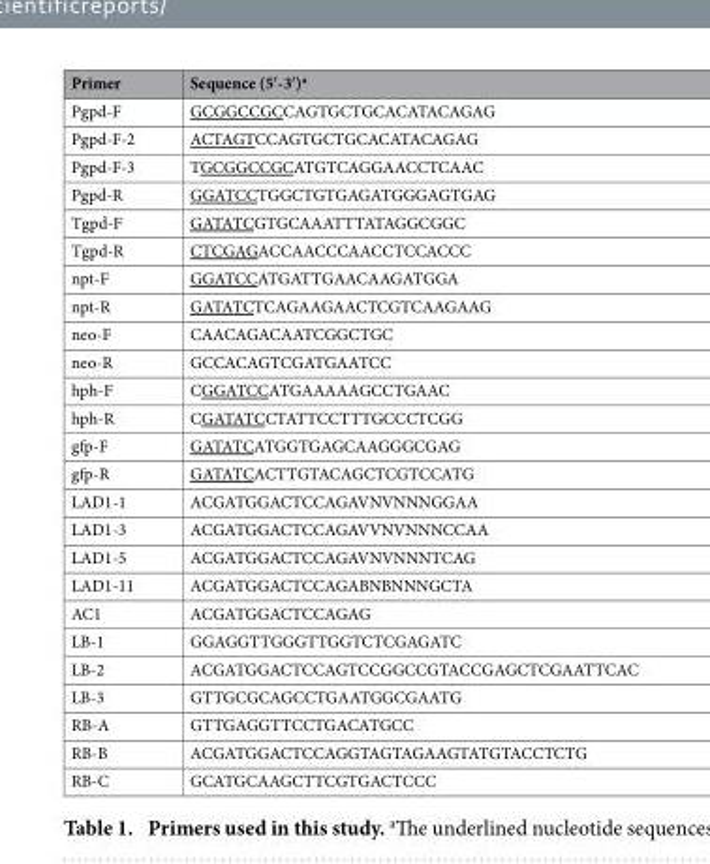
<table><thead><tr><td>Primer</td><td>Sequence (5′ -3′ )<sup>a</sup></td></tr></thead><tbody><tr><td>Pgpd-F</td><td>GCGGCCGCCAGTGCTGCACATACAGAG</td></tr><tr><td>Pgpd-F-2</td><td>ACTAGTCCAGTGCTGCACATACAGAG</td></tr><tr><td>Pgpd-F-3</td><td>TGCGGCCGCATGTCAGGAACCTCAAC</td></tr><tr><td>Pgpd-R</td><td>GGATCCTGGCTGTGAGATGGGAGTGAG</td></tr><tr><td>Tgpd-F</td><td>GATATCGTGCAAATTTATAGGCGGC</td></tr><tr><td>Tgpd-R</td><td>CTCGAGACCAACCCAACCTCCACCC</td></tr><tr><td>npt-F</td><td>GGATCCATGATTGAACAAGATGGA</td></tr><tr><td>npt-R</td><td>GATATCTCAGAAGAACTCGTCAAGAAG</td></tr><tr><td>neo-F</td><td>CAACAGACAATCGGCTGC</td></tr><tr><td>neo-R</td><td>GCCACAGTCGATGAATCC</td></tr><tr><td>hph-F</td><td>CGGATCCATGAAAAAGCCTGAAC</td></tr><tr><td>hph-R</td><td>CGATATCCTATTCCTTTGCCCTCGG</td></tr><tr><td>gfp-F</td><td>GATATCATGGTGAGCAAGGGCGAG</td></tr><tr><td>gfp-R</td><td>GATATCACTTGTACAGCTCGTCCATG</td></tr><tr><td>LAD1-1</td><td>ACGATGGACTCCAGAVNVNNNGGAA</td></tr><tr><td>LAD1-3</td><td>ACGATGGACTCCAGAVVNVNNNCCAA</td></tr><tr><td>LAD1-5</td><td>ACGATGGACTCCAGAVNVNNNTCAG</td></tr><tr><td>LAD1-11</td><td>ACGATGGACTCCAGABNBNNNGCTA</td></tr><tr><td>AC1</td><td>ACGATGGACTCCAGAG</td></tr><tr><td>LB-1</td><td>GGAGGTTGGGTTGGTCTCGAGATC</td></tr><tr><td>LB-2</td><td>ACGATGGACTCCAGTCCGGCCGTACCGAGCTCGAATTCAC</td></tr><tr><td>LB-3</td><td>GTTGCGCAGCCTGAATGGCGAATG</td></tr><tr><td>RB-A</td><td>GTTGAGGTTCCTGACATGCC</td></tr><tr><td>RB-B</td><td>ACGATGGACTCCAGGTAGTAGAAGTATGTACCTCTG</td></tr><tr><td>RB-C</td><td>GCATGCAAGCTTCGTGACTCCC</td></tr></tbody></table>